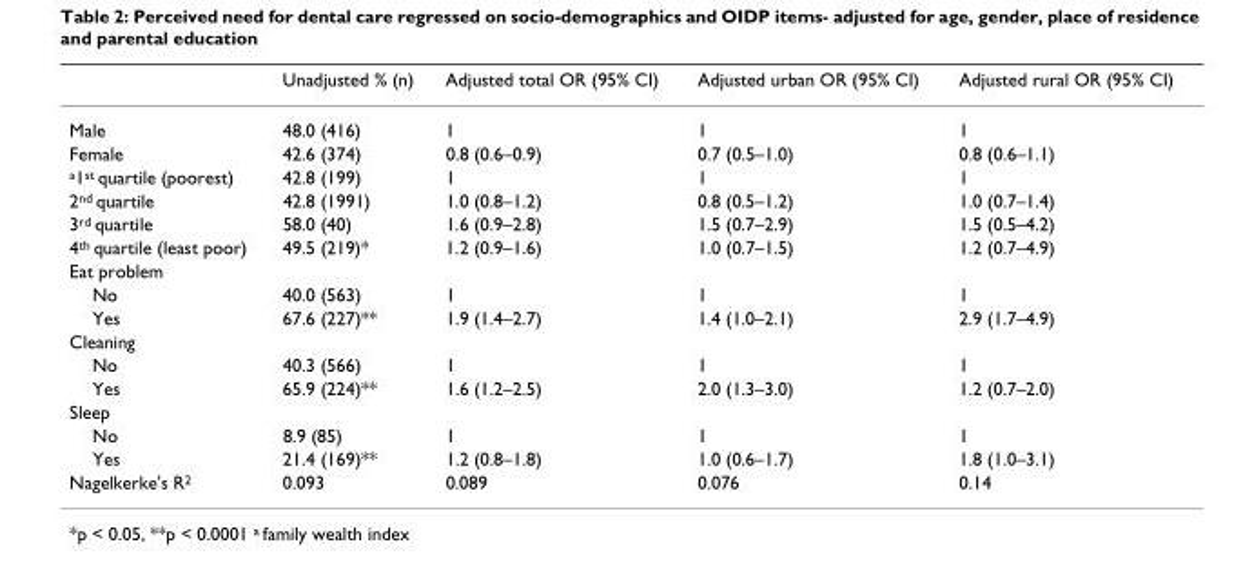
<table><thead><tr><td></td><td>Unadjusted % (n)</td><td>Adjusted total OR (95% CI)</td><td>Adjusted urban OR (95% CI)</td><td>Adjusted rural OR (95% CI)</td></tr></thead><tbody><tr><td>Male</td><td>48.0 (416)</td><td>1</td><td>1</td><td>1</td></tr><tr><td>Female</td><td>42.6 (374)</td><td>0.8 (0.6–0.9)</td><td>0.7 (0.5–1.0)</td><td>0.8 (0.6–1.1)</td></tr><tr><td><sup>a</sup>1<sup>st</sup> quartile (poorest)</td><td>42.8 (199)</td><td>1</td><td>1</td><td>1</td></tr><tr><td>2<sup>nd</sup> quartile</td><td>42.8 (1991)</td><td>1.0 (0.8–1.2)</td><td>0.8 (0.5–1.2)</td><td>1.0 (0.7–1.4)</td></tr><tr><td>3<sup>rd</sup> quartile</td><td>58.0 (40)</td><td>1.6 (0.9–2.8)</td><td>1.5 (0.7–2.9)</td><td>1.5 (0.5–4.2)</td></tr><tr><td>4<sup>th</sup> quartile (least poor)</td><td>49.5 (219)*</td><td>1.2 (0.9–1.6)</td><td>1.0 (0.7–1.5)</td><td>1.2 (0.7–4.9)</td></tr><tr><td colspan="5">Eat problem</td></tr><tr><td>No</td><td>40.0 (563)</td><td>1</td><td>1</td><td>1</td></tr><tr><td>Yes</td><td>67.6 (227)**</td><td>1.9 (1.4–2.7)</td><td>1.4 (1.0–2.1)</td><td>2.9 (1.7–4.9)</td></tr><tr><td colspan="5">Cleaning</td></tr><tr><td>No</td><td>40.3 (566)</td><td>1</td><td>1</td><td>1</td></tr><tr><td>Yes</td><td>65.9 (224)**</td><td>1.6 (1.2–2.5)</td><td>2.0 (1.3–3.0)</td><td>1.2 (0.7–2.0)</td></tr><tr><td colspan="5">Sleep</td></tr><tr><td>No</td><td>8.9 (85)</td><td>1</td><td>1</td><td>1</td></tr><tr><td>Yes</td><td>21.4 (169)**</td><td>1.2 (0.8–1.8)</td><td>1.0 (0.6–1.7)</td><td>1.8 (1.0–3.1)</td></tr><tr><td>Nagelkerke&#x27;s R<sup>2</sup></td><td>0.093</td><td>0.089</td><td>0.076</td><td>0.14</td></tr></tbody></table>